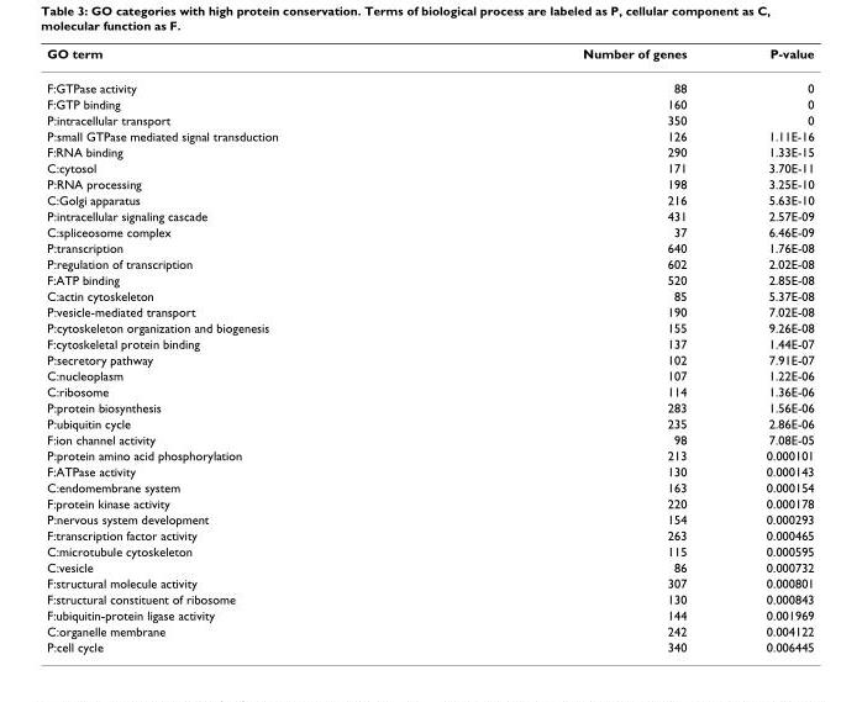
<table><thead><tr><td>GO term</td><td>Number of genes</td><td>P-value</td></tr></thead><tbody><tr><td>F:GTPase activity</td><td>88</td><td>0</td></tr><tr><td>F:GTP binding</td><td>160</td><td>0</td></tr><tr><td>P:intracellular transport</td><td>350</td><td>0</td></tr><tr><td>P:small GTPase mediated signal transduction</td><td>126</td><td>1.11E-16</td></tr><tr><td>F:RNA binding</td><td>290</td><td>1.33E-15</td></tr><tr><td>C:cytosol</td><td>171</td><td>3.70E-11</td></tr><tr><td>P:RNA processing</td><td>198</td><td>3.25E-10</td></tr><tr><td>C:Golgi apparatus</td><td>216</td><td>5.63E-10</td></tr><tr><td>P:intracellular signaling cascade</td><td>431</td><td>2.57E-09</td></tr><tr><td>C:spliceosome complex</td><td>37</td><td>6.46E-09</td></tr><tr><td>P:transcription</td><td>640</td><td>1.76E-08</td></tr><tr><td>P:regulation of transcription</td><td>602</td><td>2.02E-08</td></tr><tr><td>F:ATP binding</td><td>520</td><td>2.85E-08</td></tr><tr><td>C:actin cytoskeleton</td><td>85</td><td>5.37E-08</td></tr><tr><td>P:vesicle-mediated transport</td><td>190</td><td>7.02E-08</td></tr><tr><td>P:cytoskeleton organization and biogenesis</td><td>155</td><td>9.26E-08</td></tr><tr><td>F:cytoskeletal protein binding</td><td>137</td><td>1.44E-07</td></tr><tr><td>P:secretory pathway</td><td>102</td><td>7.91E-07</td></tr><tr><td>C:nucleoplasm</td><td>107</td><td>1.22E-06</td></tr><tr><td>C:ribosome</td><td>114</td><td>1.36E-06</td></tr><tr><td>P:protein biosynthesis</td><td>283</td><td>1.56E-06</td></tr><tr><td>P:ubiquitin cycle</td><td>235</td><td>2.86E-06</td></tr><tr><td>F:ion channel activity</td><td>98</td><td>7.08E-05</td></tr><tr><td>P:protein amino acid phosphorylation</td><td>213</td><td>0.000101</td></tr><tr><td>F:ATPase activity</td><td>130</td><td>0.000143</td></tr><tr><td>C:endomembrane system</td><td>163</td><td>0.000154</td></tr><tr><td>F:protein kinase activity</td><td>220</td><td>0.000178</td></tr><tr><td>P:nervous system development</td><td>154</td><td>0.000293</td></tr><tr><td>F:transcription factor activity</td><td>263</td><td>0.000465</td></tr><tr><td>C:microtubule cytoskeleton</td><td>115</td><td>0.000595</td></tr><tr><td>C:vesicle</td><td>86</td><td>0.000732</td></tr><tr><td>F:structural molecule activity</td><td>307</td><td>0.000801</td></tr><tr><td>F:structural constituent of ribosome</td><td>130</td><td>0.000843</td></tr><tr><td>F:ubiquitin-protein ligase activity</td><td>144</td><td>0.001969</td></tr><tr><td>C:organelle membrane</td><td>242</td><td>0.004122</td></tr><tr><td>P:cell cycle</td><td>340</td><td>0.006445</td></tr></tbody></table>